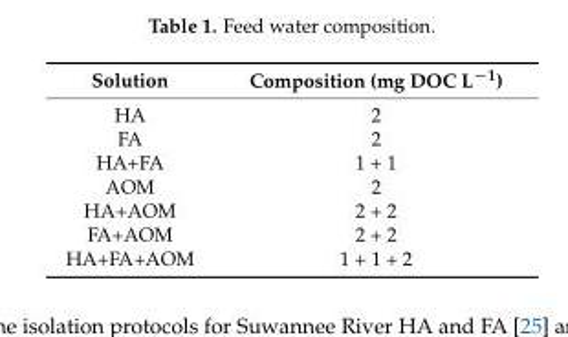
<table><thead><tr><td>Solution</td><td>Composition (mg DOC L<sup>−1</sup>)</td></tr></thead><tbody><tr><td>HA</td><td>2</td></tr><tr><td>FA</td><td>2</td></tr><tr><td>HA+FA</td><td>1 + 1</td></tr><tr><td>AOM</td><td>2</td></tr><tr><td>HA+AOM</td><td>2 + 2</td></tr><tr><td>FA+AOM</td><td>2 + 2</td></tr><tr><td>HA+FA+AOM</td><td>1 + 1 + 2</td></tr></tbody></table>